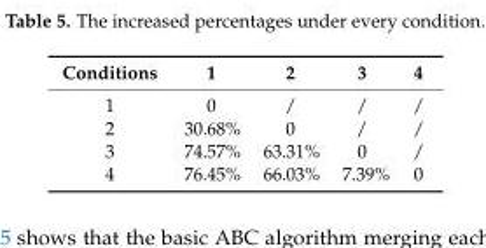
<table><thead><tr><td>Conditions</td><td>1</td><td>2</td><td>3</td><td>4</td></tr></thead><tbody><tr><td>1</td><td>0</td><td>/</td><td>/</td><td>/</td></tr><tr><td>2</td><td>30.68%</td><td>0</td><td>/</td><td>/</td></tr><tr><td>3</td><td>74.57%</td><td>63.31%</td><td>0</td><td>/</td></tr><tr><td>4</td><td>76.45%</td><td>66.03%</td><td>7.39%</td><td>0</td></tr></tbody></table>